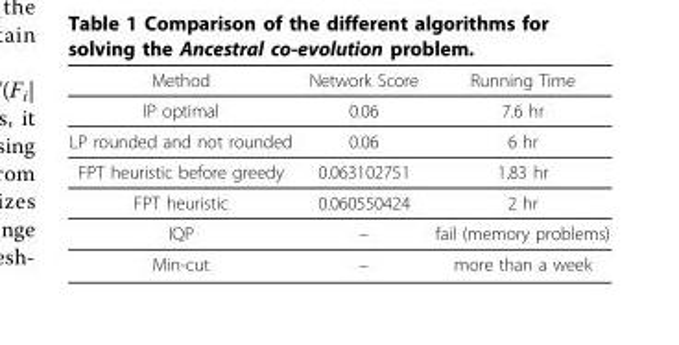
<table><thead><tr><td>Method</td><td>Network Score</td><td>Running Time</td></tr></thead><tbody><tr><td>IP optimal</td><td>0.06</td><td>7.6 hr</td></tr><tr><td>LP rounded and not rounded</td><td>0.06</td><td>6 hr</td></tr><tr><td>FPT heuristic before greedy</td><td>0.063102751</td><td>1.83 hr</td></tr><tr><td>FPT heuristic</td><td>0.060550424</td><td>2 hr</td></tr><tr><td>IQP</td><td>–</td><td>fail (memory problems)</td></tr><tr><td>Min-cut</td><td>–</td><td>more than a week</td></tr></tbody></table>